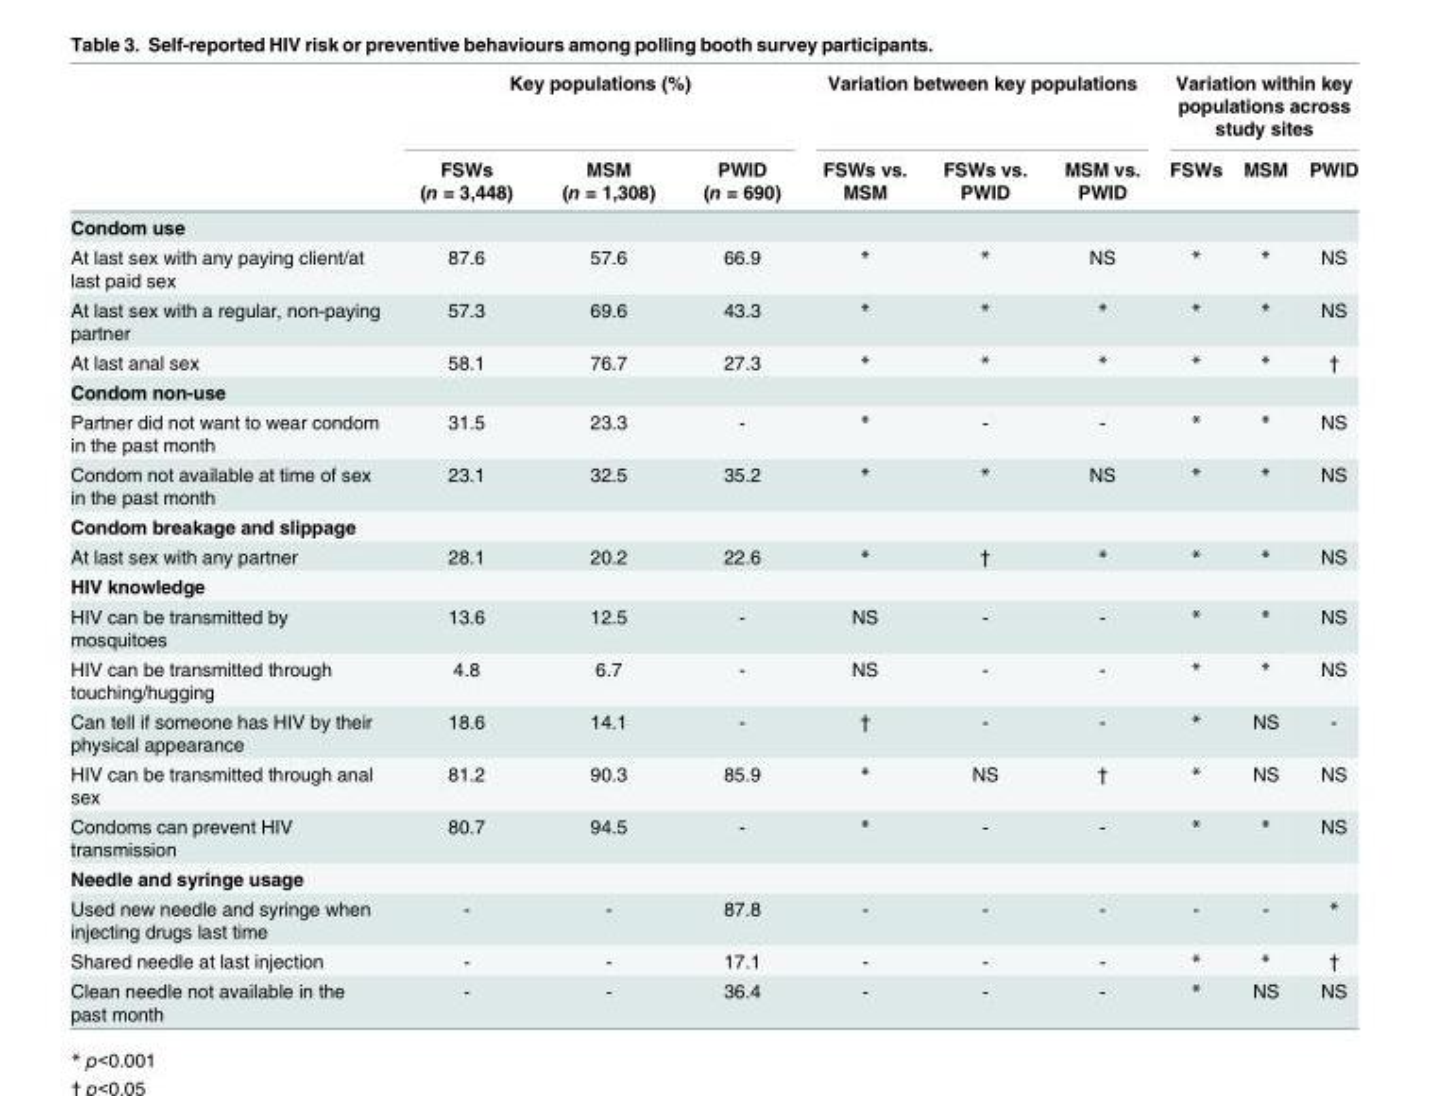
<table><thead><tr><td rowspan="2"></td><td colspan="3">Key populations (%)</td><td colspan="3">Variation between key populations</td><td colspan="3">Variation within key populations across study sites</td></tr><tr><td>FSWs (n = 3,448)</td><td>MSM (n = 1,308)</td><td>PWID (n = 690)</td><td>FSWs vs. MSM</td><td>FSWs vs. PWID</td><td>MSM vs. PWID</td><td>FSWs</td><td>MSM</td><td>PWID</td></tr></thead><tbody><tr><td colspan="10">Condom use</td></tr><tr><td>At last sex with any paying client/at last paid sex</td><td>87.6</td><td>57.6</td><td>66.9</td><td>*</td><td>*</td><td>NS</td><td>*</td><td>*</td><td>NS</td></tr><tr><td>At last sex with a regular, non-paying partner</td><td>57.3</td><td>69.6</td><td>43.3</td><td>*</td><td>*</td><td>*</td><td>*</td><td>*</td><td>NS</td></tr><tr><td>At last anal sex</td><td>58.1</td><td>76.7</td><td>27.3</td><td>*</td><td>*</td><td>*</td><td>*</td><td>*</td><td>†</td></tr><tr><td colspan="10">Condom non-use</td></tr><tr><td>Partner did not want to wear condom in the past month</td><td>31.5</td><td>23.3</td><td>-</td><td>*</td><td>-</td><td>-</td><td>*</td><td>*</td><td>NS</td></tr><tr><td>Condom not available at time of sex in the past month</td><td>23.1</td><td>32.5</td><td>35.2</td><td>*</td><td>*</td><td>NS</td><td>*</td><td>*</td><td>NS</td></tr><tr><td colspan="10">Condom breakage and slippage</td></tr><tr><td>At last sex with any partner</td><td>28.1</td><td>20.2</td><td>22.6</td><td>*</td><td>†</td><td>*</td><td>*</td><td>*</td><td>NS</td></tr><tr><td colspan="10">HIV knowledge</td></tr><tr><td>HIV can be transmitted by mosquitoes</td><td>13.6</td><td>12.5</td><td>-</td><td>NS</td><td>-</td><td>-</td><td>*</td><td>*</td><td>NS</td></tr><tr><td>HIV can be transmitted through touching/hugging</td><td>4.8</td><td>6.7</td><td>-</td><td>NS</td><td>-</td><td>-</td><td>*</td><td>*</td><td>NS</td></tr><tr><td>Can tell if someone has HIV by their physical appearance</td><td>18.6</td><td>14.1</td><td>-</td><td>†</td><td>-</td><td>-</td><td>*</td><td>NS</td><td>-</td></tr><tr><td>HIV can be transmitted through anal sex</td><td>81.2</td><td>90.3</td><td>85.9</td><td>*</td><td>NS</td><td>†</td><td>*</td><td>NS</td><td>NS</td></tr><tr><td>Condoms can prevent HIV transmission</td><td>80.7</td><td>94.5</td><td>-</td><td>*</td><td>-</td><td>-</td><td>*</td><td>*</td><td>NS</td></tr><tr><td colspan="10">Needle and syringe usage</td></tr><tr><td>Used new needle and syringe when injecting drugs last time</td><td>-</td><td>-</td><td>87.8</td><td>-</td><td>-</td><td>-</td><td>-</td><td>-</td><td>*</td></tr><tr><td>Shared needle at last injection</td><td>-</td><td>-</td><td>17.1</td><td>-</td><td>-</td><td>-</td><td>*</td><td>*</td><td>†</td></tr><tr><td>Clean needle not available in the past month</td><td>-</td><td>-</td><td>36.4</td><td>-</td><td>-</td><td>-</td><td>*</td><td>NS</td><td>NS</td></tr></tbody></table>